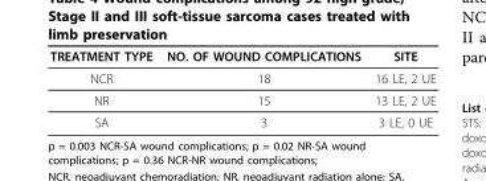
<table><thead><tr><td>TREATMENT TYPE</td><td>NO. OF WOUND COMPLICATIONS</td><td>SITE</td></tr></thead><tbody><tr><td>NCR</td><td>18</td><td>16 LE, 2 UE</td></tr><tr><td>NR</td><td>15</td><td>13 LE, 2 UE</td></tr><tr><td>SA</td><td>3</td><td>3 LE, 0 UE</td></tr></tbody></table>